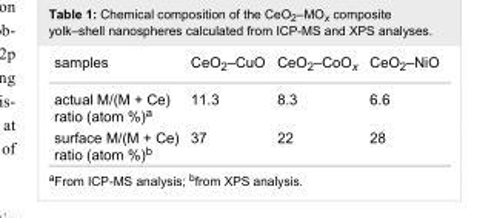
<table><tbody><tr><td>samples</td><td>CeO<sub>2</sub>–CuO</td><td>CeO<sub>2</sub>–CoO<sub>x</sub></td><td>CeO<sub>2</sub>–NiO</td></tr><tr><td>actual M/(M + Ce) ratio (atom %)<sup>a</sup></td><td>11.3</td><td>8.3</td><td>6.6</td></tr><tr><td>surface M/(M + Ce) ratio (atom %)<sup>b</sup></td><td>37</td><td>22</td><td>28</td></tr></tbody></table>